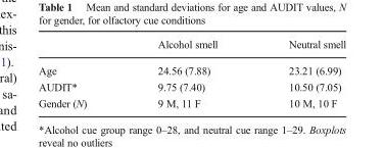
<table><thead><tr><td></td><td>Alcohol smell</td><td>Neutral smell</td></tr></thead><tbody><tr><td>Age</td><td>24.56 (7.88)</td><td>23.21 (6.99)</td></tr><tr><td>AUDIT*</td><td>9.75 (7.40)</td><td>10.50 (7.05)</td></tr><tr><td>Gender (N)</td><td>9 M, 11 F</td><td>10 M, 10 F</td></tr></tbody></table>